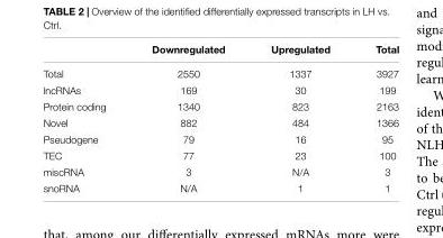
<table><thead><tr><td></td><td>Downregulated</td><td>Upregulated</td><td>Total</td></tr></thead><tbody><tr><td>Total</td><td>2550</td><td>1337</td><td>3927</td></tr><tr><td>lncRNAs</td><td>169</td><td>30</td><td>199</td></tr><tr><td>Protein coding</td><td>1340</td><td>823</td><td>2163</td></tr><tr><td>Novel</td><td>882</td><td>484</td><td>1366</td></tr><tr><td>Pseudogene</td><td>79</td><td>16</td><td>95</td></tr><tr><td>TEC</td><td>77</td><td>23</td><td>100</td></tr><tr><td>miscRNA</td><td>3</td><td>N/A</td><td>3</td></tr><tr><td>snoRNA</td><td>N/A</td><td>1</td><td>1</td></tr></tbody></table>